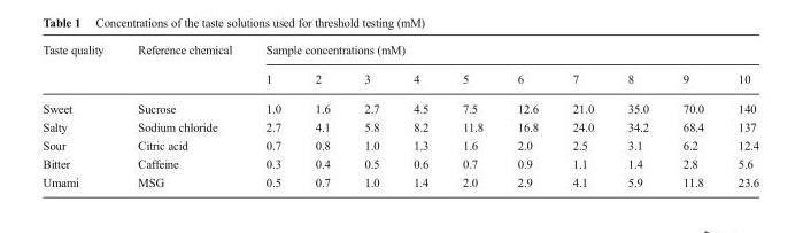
<table><thead><tr><td rowspan="2">Taste quality</td><td rowspan="2">Reference chemical</td><td colspan="10">Sample concentrations (mM)</td></tr><tr><td>1</td><td>2</td><td>3</td><td>4</td><td>5</td><td>6</td><td>7</td><td>8</td><td>9</td><td>10</td></tr></thead><tbody><tr><td>Sweet</td><td>Sucrose</td><td>1.0</td><td>1.6</td><td>2.7</td><td>4.5</td><td>7.5</td><td>12.6</td><td>21.0</td><td>35.0</td><td>70.0</td><td>140</td></tr><tr><td>Salty</td><td>Sodium chloride</td><td>2.7</td><td>4.1</td><td>5.8</td><td>8.2</td><td>11.8</td><td>16.8</td><td>24.0</td><td>34.2</td><td>68.4</td><td>137</td></tr><tr><td>Sour</td><td>Citric acid</td><td>0.7</td><td>0.8</td><td>1.0</td><td>1.3</td><td>1.6</td><td>2.0</td><td>2.5</td><td>3.1</td><td>6.2</td><td>12.4</td></tr><tr><td>Bitter</td><td>Caffeine</td><td>0.3</td><td>0.4</td><td>0.5</td><td>0.6</td><td>0.7</td><td>0.9</td><td>1.1</td><td>1.4</td><td>2.8</td><td>5.6</td></tr><tr><td>Umami</td><td>MSG</td><td>0.5</td><td>0.7</td><td>1.0</td><td>1.4</td><td>2.0</td><td>2.9</td><td>4.1</td><td>5.9</td><td>11.8</td><td>23.6</td></tr></tbody></table>